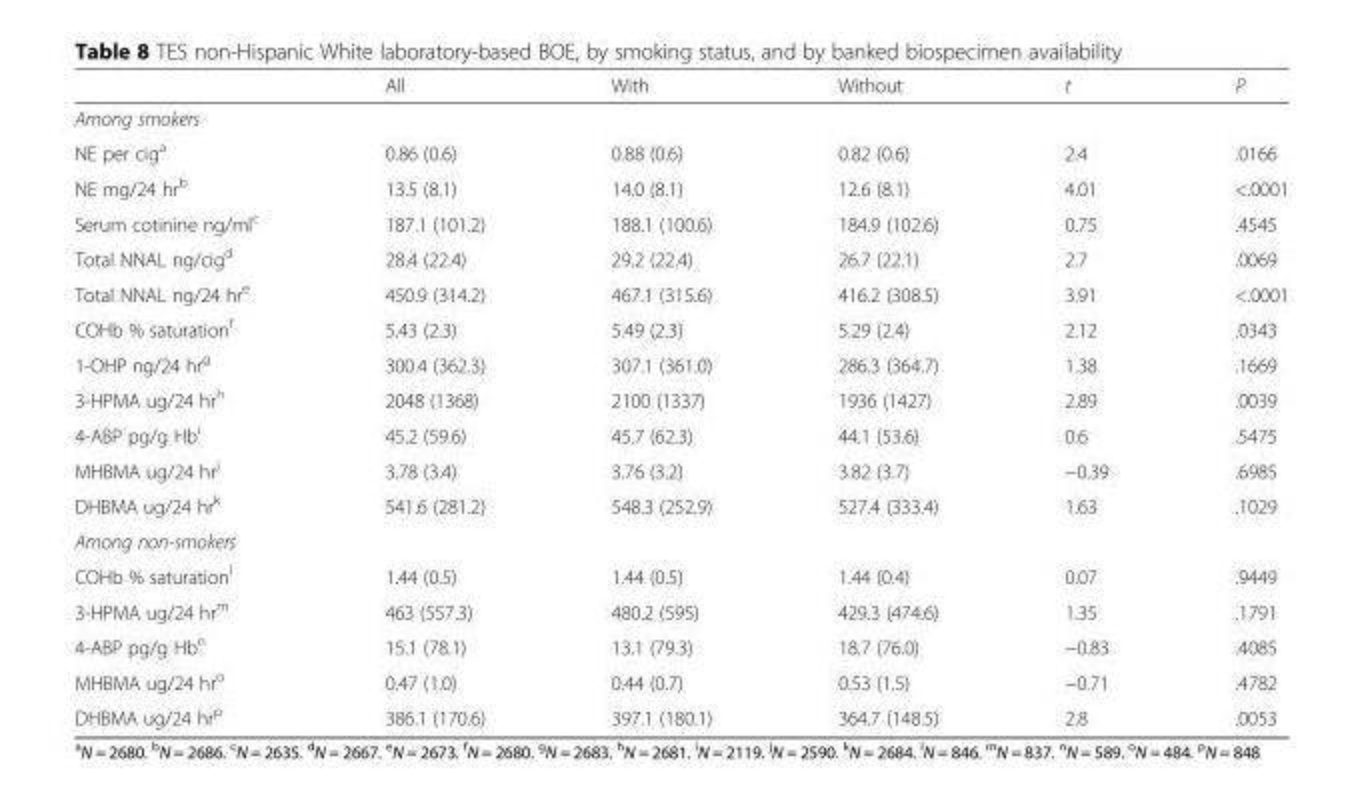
<table><thead><tr><td></td><td>All</td><td>With</td><td>Without</td><td>t</td><td>P</td></tr></thead><tbody><tr><td colspan="6">Among smokers</td></tr><tr><td>NE per cig<sup>a</sup></td><td>0.86 (0.6)</td><td>0.88 (0.6)</td><td>0.82 (0.6)</td><td>2.4</td><td>.0166</td></tr><tr><td>NE mg/24 hr<sup>b</sup></td><td>13.5 (8.1)</td><td>14.0 (8.1)</td><td>12.6 (8.1)</td><td>4.01</td><td>&lt;.0001</td></tr><tr><td>Serum cotinine ng/ml<sup>c</sup></td><td>187.1 (101.2)</td><td>188.1 (100.6)</td><td>184.9 (102.6)</td><td>0.75</td><td>.4545</td></tr><tr><td>Total NNAL ng/cig<sup>d</sup></td><td>28.4 (22.4)</td><td>29.2 (22.4)</td><td>26.7 (22.1)</td><td>2.7</td><td>.0069</td></tr><tr><td>Total NNAL ng/24 hr<sup>e</sup></td><td>450.9 (314.2)</td><td>467.1 (315.6)</td><td>416.2 (308.5)</td><td>3.91</td><td>&lt;.0001</td></tr><tr><td>COHb % saturation<sup>f</sup></td><td>5.43 (2.3)</td><td>5.49 (2.3)</td><td>5.29 (2.4)</td><td>2.12</td><td>.0343</td></tr><tr><td>1-OHP ng/24 hr<sup>g</sup></td><td>300.4 (362.3)</td><td>307.1 (361.0)</td><td>286.3 (364.7)</td><td>1.38</td><td>.1669</td></tr><tr><td>3-HPMA ug/24 hr<sup>h</sup></td><td>2048 (1368)</td><td>2100 (1337)</td><td>1936 (1427)</td><td>2.89</td><td>.0039</td></tr><tr><td>4-ABP pg/g Hb<sup>i</sup></td><td>45.2 (59.6)</td><td>45.7 (62.3)</td><td>44.1 (53.6)</td><td>0.6</td><td>.5475</td></tr><tr><td>MHBMA ug/24 hr<sup>j</sup></td><td>3.78 (3.4)</td><td>3.76 (3.2)</td><td>3.82 (3.7)</td><td>−0.39</td><td>.6985</td></tr><tr><td>DHBMA ug/24 hr<sup>k</sup></td><td>541.6 (281.2)</td><td>548.3 (252.9)</td><td>527.4 (333.4)</td><td>1.63</td><td>.1029</td></tr><tr><td colspan="6">Among non-smokers</td></tr><tr><td>COHb % saturation<sup>l</sup></td><td>1.44 (0.5)</td><td>1.44 (0.5)</td><td>1.44 (0.4)</td><td>0.07</td><td>.9449</td></tr><tr><td>3-HPMA ug/24 hr<sup>m</sup></td><td>463 (557.3)</td><td>480.2 (595)</td><td>429.3 (474.6)</td><td>1.35</td><td>.1791</td></tr><tr><td>4-ABP pg/g Hb<sup>n</sup></td><td>15.1 (78.1)</td><td>13.1 (79.3)</td><td>18.7 (76.0)</td><td>−0.83</td><td>.4085</td></tr><tr><td>MHBMA ug/24 hr<sup>o</sup></td><td>0.47 (1.0)</td><td>0.44 (0.7)</td><td>0.53 (1.5)</td><td>−0.71</td><td>.4782</td></tr><tr><td>DHBMA ug/24 hr<sup>p</sup></td><td>386.1 (170.6)</td><td>397.1 (180.1)</td><td>364.7 (148.5)</td><td>2.8</td><td>.0053</td></tr></tbody></table>